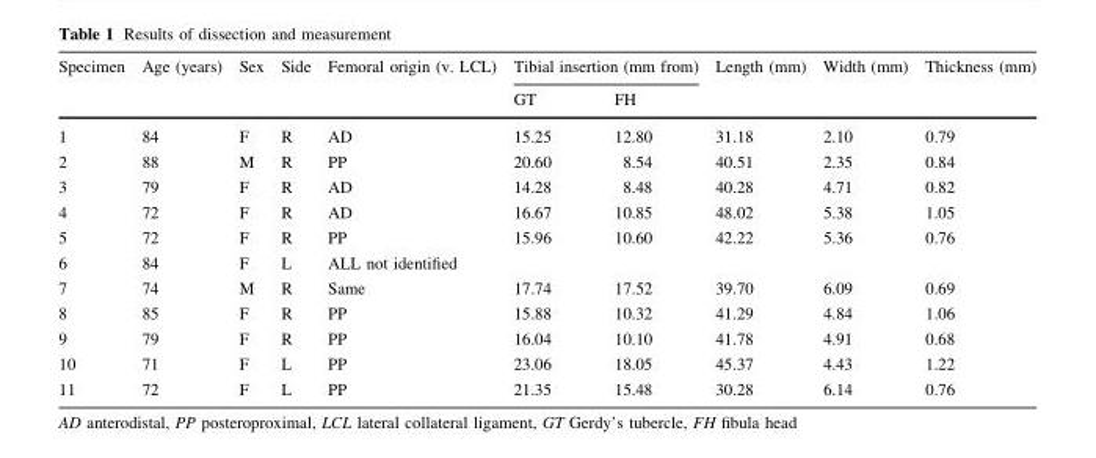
<table><thead><tr><td rowspan="2">Specimen</td><td rowspan="2">Age (years)</td><td rowspan="2">Sex</td><td rowspan="2">Side</td><td rowspan="2">Femoral origin (v. LCL)</td><td colspan="2">Tibial insertion (mm from)</td><td rowspan="2">Length (mm)</td><td rowspan="2">Width (mm)</td><td rowspan="2">Thickness (mm)</td></tr><tr><td>GT</td><td>FH</td></tr></thead><tbody><tr><td>1</td><td>84</td><td>F</td><td>R</td><td>AD</td><td>15.25</td><td>12.80</td><td>31.18</td><td>2.10</td><td>0.79</td></tr><tr><td>2</td><td>88</td><td>M</td><td>R</td><td>PP</td><td>20.60</td><td>8.54</td><td>40.51</td><td>2.35</td><td>0.84</td></tr><tr><td>3</td><td>79</td><td>F</td><td>R</td><td>AD</td><td>14.28</td><td>8.48</td><td>40.28</td><td>4.71</td><td>0.82</td></tr><tr><td>4</td><td>72</td><td>F</td><td>R</td><td>AD</td><td>16.67</td><td>10.85</td><td>48.02</td><td>5.38</td><td>1.05</td></tr><tr><td>5</td><td>72</td><td>F</td><td>R</td><td>PP</td><td>15.96</td><td>10.60</td><td>42.22</td><td>5.36</td><td>0.76</td></tr><tr><td>6</td><td>84</td><td>F</td><td>L</td><td colspan="6">ALL not identified</td></tr><tr><td>7</td><td>74</td><td>M</td><td>R</td><td>Same</td><td>17.74</td><td>17.52</td><td>39.70</td><td>6.09</td><td>0.69</td></tr><tr><td>8</td><td>85</td><td>F</td><td>R</td><td>PP</td><td>15.88</td><td>10.32</td><td>41.29</td><td>4.84</td><td>1.06</td></tr><tr><td>9</td><td>79</td><td>F</td><td>R</td><td>PP</td><td>16.04</td><td>10.10</td><td>41.78</td><td>4.91</td><td>0.68</td></tr><tr><td>10</td><td>71</td><td>F</td><td>L</td><td>PP</td><td>23.06</td><td>18.05</td><td>45.37</td><td>4.43</td><td>1.22</td></tr><tr><td>11</td><td>72</td><td>F</td><td>L</td><td>PP</td><td>21.35</td><td>15.48</td><td>30.28</td><td>6.14</td><td>0.76</td></tr></tbody></table>